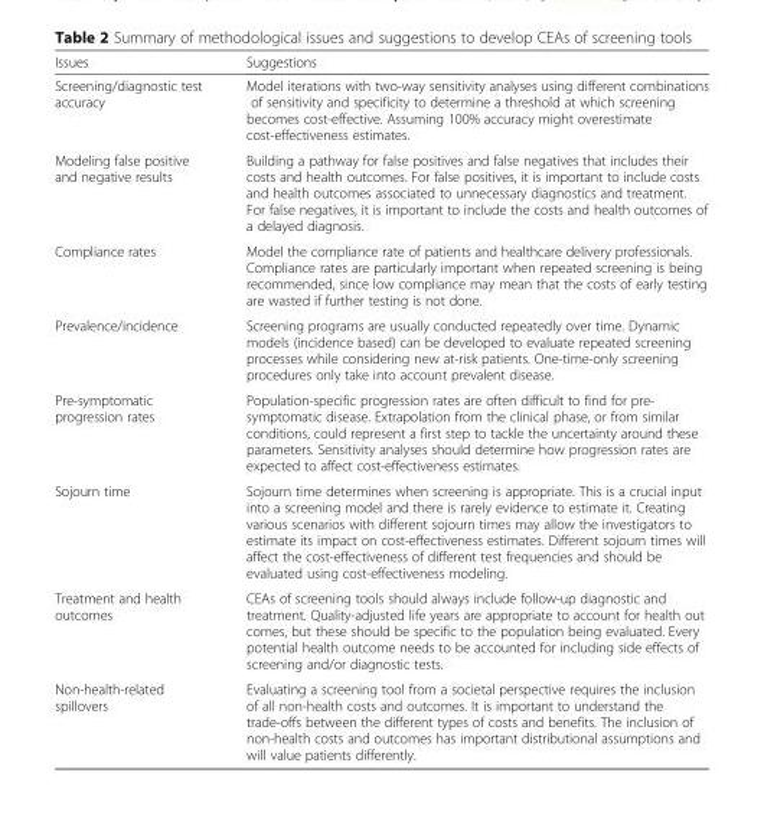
<table><thead><tr><td>Issues</td><td>Suggestions</td></tr></thead><tbody><tr><td>Screening/diagnostic test accuracy</td><td>Model iterations with two-way sensitivity analyses using different combinations of sensitivity and specificity to determine a threshold at which screening becomes cost-effective. Assuming 100% accuracy might overestimate cost-effectiveness estimates.</td></tr><tr><td>Modeling false positive and negative results</td><td>Building a pathway for false positives and false negatives that includes their costs and health outcomes. For false positives, it is important to include costs and health outcomes associated to unnecessary diagnostics and treatment. For false negatives, it is important to include the costs and health outcomes of a delayed diagnosis.</td></tr><tr><td>Compliance rates</td><td>Model the compliance rate of patients and healthcare delivery professionals. Compliance rates are particularly important when repeated screening is being recommended, since low compliance may mean that the costs of early testing are wasted if further testing is not done.</td></tr><tr><td>Prevalence/incidence</td><td>Screening programs are usually conducted repeatedly over time. Dynamic models (incidence based) can be developed to evaluate repeated screening processes while considering new at-risk patients. One-time-only screening procedures only take into account prevalent disease.</td></tr><tr><td>Pre-symptomatic progression rates</td><td>Population-specific progression rates are often difficult to find for pre- symptomatic disease. Extrapolation from the clinical phase, or from similar conditions, could represent a first step to tackle the uncertainty around these parameters. Sensitivity analyses should determine how progression rates are expected to affect cost-effectiveness estimates.</td></tr><tr><td>Sojourn time</td><td>Sojourn time determines when screening is appropriate. This is a crucial input into a screening model and there is rarely evidence to estimate it. Creating various scenarios with different sojourn times may allow the investigators to estimate its impact on cost-effectiveness estimates. Different sojourn times will affect the cost-effectiveness of different test frequencies and should be evaluated using cost-effectiveness modeling.</td></tr><tr><td>Treatment and health outcomes</td><td>CEAs of screening tools should always include follow-up diagnostic and treatment. Quality-adjusted life years are appropriate to account for health out comes, but these should be specific to the population being evaluated. Every potential health outcome needs to be accounted for including side effects of screening and/or diagnostic tests.</td></tr><tr><td>Non-health-related spillovers</td><td>Evaluating a screening tool from a societal perspective requires the inclusion of all non-health costs and outcomes. It is important to understand the trade-offs between the different types of costs and benefits. The inclusion of non-health costs and outcomes has important distributional assumptions and will value patients differently.</td></tr></tbody></table>